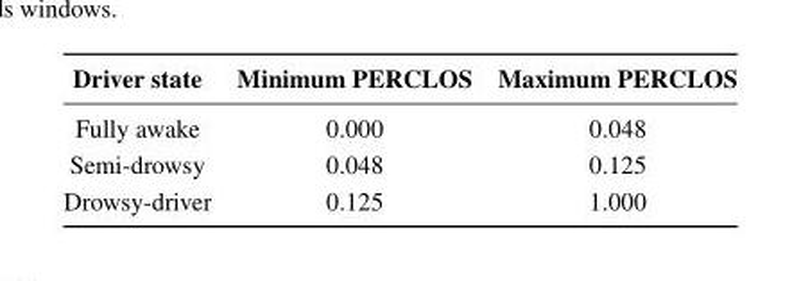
<table><thead><tr><td>Driver state</td><td>Minimum PERCLOS</td><td>Maximum PERCLOS</td></tr></thead><tbody><tr><td>Fully awake</td><td>0.000</td><td>0.048</td></tr><tr><td>Semi-drowsy</td><td>0.048</td><td>0.125</td></tr><tr><td>Drowsy-driver</td><td>0.125</td><td>1.000</td></tr></tbody></table>